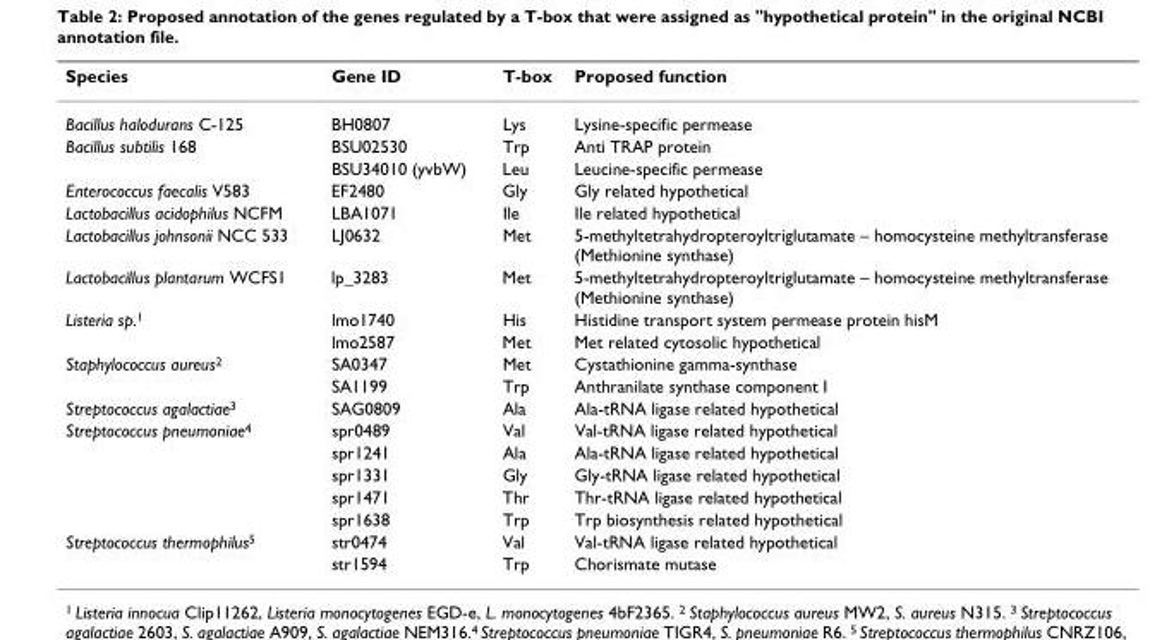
<table><thead><tr><td>Species</td><td>Gene ID</td><td>T-box</td><td>Proposed function</td></tr></thead><tbody><tr><td>Bacillus halodurans C-125</td><td>BH0807</td><td>Lys</td><td>Lysine-specific permease</td></tr><tr><td rowspan="2">Bacillus subtilis 168</td><td>BSU02530</td><td>Trp</td><td>Anti TRAP protein</td></tr><tr><td>BSU34010 (yvbW)</td><td>Leu</td><td>Leucine-specific permease</td></tr><tr><td>Enterococcus faecalis V583</td><td>EF2480</td><td>Gly</td><td>Gly related hypothetical</td></tr><tr><td>Lactobacillus acidophilus NCFM</td><td>LBA1071</td><td>Ile</td><td>Ile related hypothetical</td></tr><tr><td>Lactobacillus johnsonii NCC 533</td><td>LJ0632</td><td>Met</td><td>5-methyltetrahydropteroyltriglutamate – homocysteine methyltransferase (Methionine synthase)</td></tr><tr><td>Lactobacillus plantarum WCFS1</td><td>lp_3283</td><td>Met</td><td>5-methyltetrahydropteroyltriglutamate – homocysteine methyltransferase (Methionine synthase)</td></tr><tr><td rowspan="2">Listeria sp.<sup>1</sup></td><td>lmo1740</td><td>His</td><td>Histidine transport system permease protein hisM</td></tr><tr><td>lmo2587</td><td>Met</td><td>Met related cytosolic hypothetical</td></tr><tr><td rowspan="2">Staphylococcus aureus<sup>2</sup></td><td>SA0347</td><td>Met</td><td>Cystathionine gamma-synthase</td></tr><tr><td>SA1199</td><td>Trp</td><td>Anthranilate synthase component I</td></tr><tr><td>Streptococcus agalactiae<sup>3</sup></td><td>SAG0809</td><td>Ala</td><td>Ala-tRNA ligase related hypothetical</td></tr><tr><td rowspan="5">Streptococcus pneumoniae<sup>4</sup></td><td>spr0489</td><td>Val</td><td>Val-tRNA ligase related hypothetical</td></tr><tr><td>spr1241</td><td>Ala</td><td>Ala-tRNA ligase related hypothetical</td></tr><tr><td>spr1331</td><td>Gly</td><td>Gly-tRNA ligase related hypothetical</td></tr><tr><td>spr1471</td><td>Thr</td><td>Thr-tRNA ligase related hypothetical</td></tr><tr><td>spr1638</td><td>Trp</td><td>Trp biosynthesis related hypothetical</td></tr><tr><td rowspan="2">Streptococcus thermophilus<sup>5</sup></td><td>str0474</td><td>Val</td><td>Val-tRNA ligase related hypothetical</td></tr><tr><td>str1594</td><td>Trp</td><td>Chorismate mutase</td></tr></tbody></table>